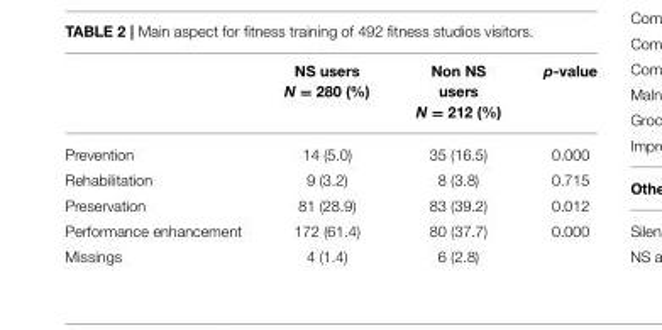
<table><thead><tr><td></td><td>NS users N = 280 (%)</td><td>Non NS users N = 212 (%)</td><td>p-value</td></tr></thead><tbody><tr><td>Prevention</td><td>14 (5.0)</td><td>35 (16.5)</td><td>0.000</td></tr><tr><td>Rehabilitation</td><td>9 (3.2)</td><td>8 (3.8)</td><td>0.715</td></tr><tr><td>Preservation</td><td>81 (28.9)</td><td>83 (39.2)</td><td>0.012</td></tr><tr><td>Performance enhancement</td><td>172 (61.4)</td><td>80 (37.7)</td><td>0.000</td></tr><tr><td>Missings</td><td>4 (1.4)</td><td>6 (2.8)</td><td></td></tr></tbody></table>